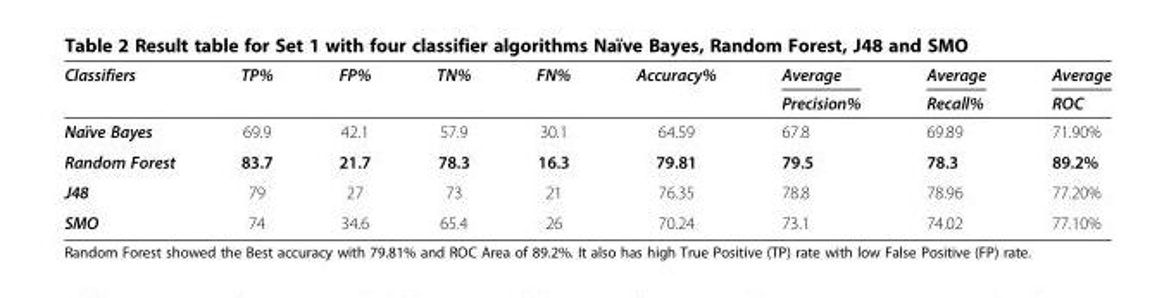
<table><thead><tr><td rowspan="2">Classifiers</td><td rowspan="2">TP%</td><td rowspan="2">FP%</td><td rowspan="2">TN%</td><td rowspan="2">FN%</td><td rowspan="2">Accuracy%</td><td rowspan="2">Average Precision%</td><td rowspan="2">Average Recall%</td><td rowspan="2">Average ROC</td></tr><tr></tr></thead><tbody><tr><td>Naïve Bayes</td><td>69.9</td><td>42.1</td><td>57.9</td><td>30.1</td><td>64.59</td><td>67.8</td><td>69.89</td><td>71.90%</td></tr><tr><td>Random Forest</td><td>83.7</td><td>21.7</td><td>78.3</td><td>16.3</td><td>79.81</td><td>79.5</td><td>78.3</td><td>89.2%</td></tr><tr><td>J48</td><td>79</td><td>27</td><td>73</td><td>21</td><td>76.35</td><td>78.8</td><td>78.96</td><td>77.20%</td></tr><tr><td>SMO</td><td>74</td><td>34.6</td><td>65.4</td><td>26</td><td>70.24</td><td>73.1</td><td>74.02</td><td>77.10%</td></tr></tbody></table>